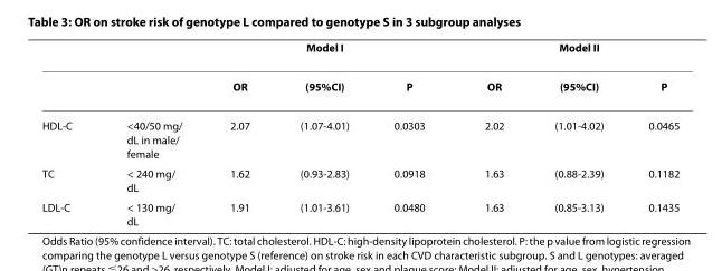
<table><thead><tr><td rowspan="2"></td><td rowspan="2"></td><td colspan="3">Model I</td><td colspan="3">Model II</td></tr><tr><td>OR</td><td>(95%CI)</td><td>P</td><td>OR</td><td>(95%CI)</td><td>P</td></tr></thead><tbody><tr><td>HDL-C</td><td>&lt;40/50 mg/ dL in male/ female</td><td>2.07</td><td>(1.07-4.01)</td><td>0.0303</td><td>2.02</td><td>(1.01-4.02)</td><td>0.0465</td></tr><tr><td>TC</td><td>&lt; 240 mg/ dL</td><td>1.62</td><td>(0.93-2.83)</td><td>0.0918</td><td>1.63</td><td>(0.88-2.39)</td><td>0.1182</td></tr><tr><td>LDL-C</td><td>&lt; 130 mg/ dL</td><td>1.91</td><td>(1.01-3.61)</td><td>0.0480</td><td>1.63</td><td>(0.85-3.13)</td><td>0.1435</td></tr></tbody></table>